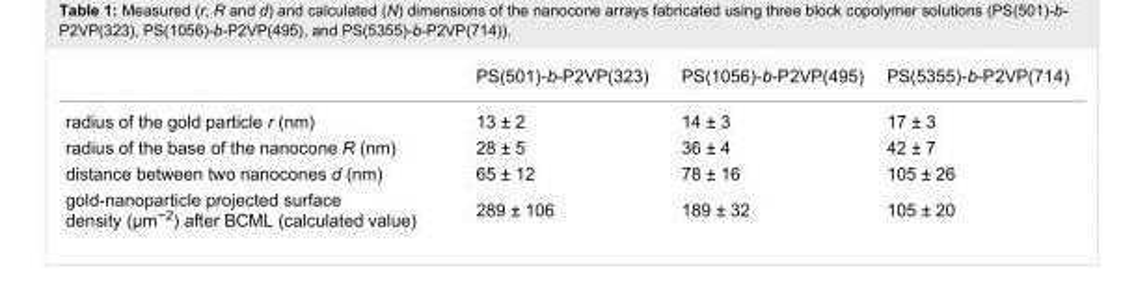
<table><thead><tr><td></td><td>PS(501)-b-P2VP(323)</td><td>PS(1056)-b-P2VP(495)</td><td>PS(5355)-b-P2VP(714)</td></tr></thead><tbody><tr><td>radius of the gold particle r (nm)</td><td>13 ± 2</td><td>14 ± 3</td><td>17 ± 3</td></tr><tr><td>radius of the base of the nanocone R (nm)</td><td>28 ± 5</td><td>36 ± 4</td><td>42 ± 7</td></tr><tr><td>distance between two nanocones d (nm)</td><td>65 ± 12</td><td>78 ± 16</td><td>105 ± 26</td></tr><tr><td>gold-nanoparticle projected surface density (μm<sup>−2</sup>) after BCML (calculated value)</td><td>289 ± 106</td><td>189 ± 32</td><td>105 ± 20</td></tr></tbody></table>